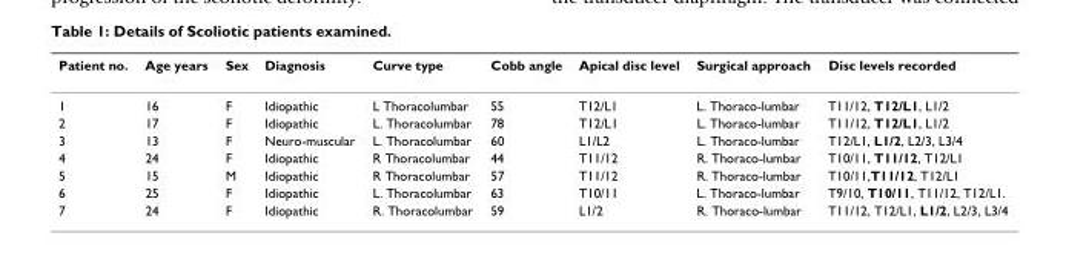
<table><thead><tr><td>Patient no.</td><td>Age years</td><td>Sex</td><td>Diagnosis</td><td>Curve type</td><td>Cobb angle</td><td>Apical disc level</td><td>Surgical approach</td><td>Disc levels recorded</td></tr></thead><tbody><tr><td>1</td><td>16</td><td>F</td><td>Idiopathic</td><td>L Thoracolumbar</td><td>55</td><td>T12/L1</td><td>L. Thoraco-lumbar</td><td>T11/12, T12/L1, L1/2</td></tr><tr><td>2</td><td>17</td><td>F</td><td>Idiopathic</td><td>L. Thoracolumbar</td><td>78</td><td>T12/L1</td><td>L. Thoraco-lumbar</td><td>T11/12, T12/L1, L1/2</td></tr><tr><td>3</td><td>13</td><td>F</td><td>Neuro-muscular</td><td>L. Thoracolumbar</td><td>60</td><td>L1/L2</td><td>L. Thoraco-lumbar</td><td>T12/L1, L1/2, L2/3, L3/4</td></tr><tr><td>4</td><td>24</td><td>F</td><td>Idiopathic</td><td>R Thoracolumbar</td><td>44</td><td>T11/12</td><td>R. Thoraco-lumbar</td><td>T10/11, T11/12, T12/L1</td></tr><tr><td>5</td><td>15</td><td>M</td><td>Idiopathic</td><td>R Thoracolumbar</td><td>57</td><td>T11/12</td><td>R. Thoraco-lumbar</td><td>T10/11,T11/12, T12/L1</td></tr><tr><td>6</td><td>25</td><td>F</td><td>Idiopathic</td><td>L. Thoracolumbar</td><td>63</td><td>T10/11</td><td>L. Thoraco-lumbar</td><td>T9/10, T10/11, T11/12, T12/L1.</td></tr><tr><td>7</td><td>24</td><td>F</td><td>Idiopathic</td><td>R. Thoracolumbar</td><td>59</td><td>L1/2</td><td>R. Thoraco-lumbar</td><td>T11/12, T12/L1, L1/2, L2/3, L3/4</td></tr></tbody></table>